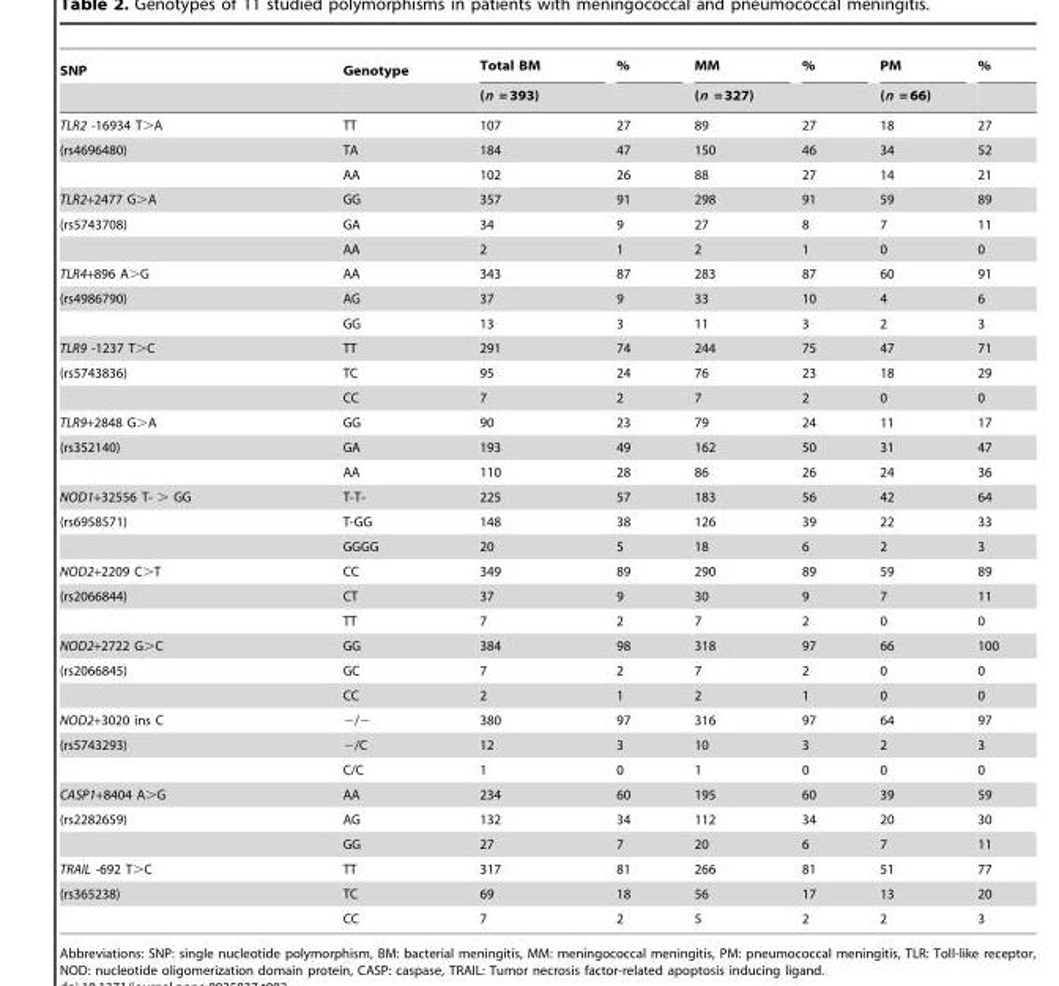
<table><thead><tr><td rowspan="2">SNP</td><td rowspan="2">Genotype</td><td rowspan="2">Total BM (n = 393)</td><td rowspan="2">%</td><td rowspan="2">MM (n = 327)</td><td rowspan="2">%</td><td rowspan="2">PM (n = 66)</td><td rowspan="2">%</td></tr><tr></tr></thead><tbody><tr><td>TLR2 -16934 T&gt;A</td><td>TT</td><td>107</td><td>27</td><td>89</td><td>27</td><td>18</td><td>27</td></tr><tr><td rowspan="2">(rs4696480)</td><td>TA</td><td>184</td><td>47</td><td>150</td><td>46</td><td>34</td><td>52</td></tr><tr><td>AA</td><td>102</td><td>26</td><td>88</td><td>27</td><td>14</td><td>21</td></tr><tr><td>TLR2+2477 G&gt;A</td><td>GG</td><td>357</td><td>91</td><td>298</td><td>91</td><td>59</td><td>89</td></tr><tr><td rowspan="2">(rs5743708)</td><td>GA</td><td>34</td><td>9</td><td>27</td><td>8</td><td>7</td><td>11</td></tr><tr><td>AA</td><td>2</td><td>1</td><td>2</td><td>1</td><td>0</td><td>0</td></tr><tr><td>TLR4+896 A&gt;G</td><td>AA</td><td>343</td><td>87</td><td>283</td><td>87</td><td>60</td><td>91</td></tr><tr><td rowspan="2">(rs4986790)</td><td>AG</td><td>37</td><td>9</td><td>33</td><td>10</td><td>4</td><td>6</td></tr><tr><td>GG</td><td>13</td><td>3</td><td>11</td><td>3</td><td>2</td><td>3</td></tr><tr><td>TLR9 -1237 T&gt;C</td><td>TT</td><td>291</td><td>74</td><td>244</td><td>75</td><td>47</td><td>71</td></tr><tr><td rowspan="2">(rs5743836)</td><td>TC</td><td>95</td><td>24</td><td>76</td><td>23</td><td>18</td><td>29</td></tr><tr><td>CC</td><td>7</td><td>2</td><td>7</td><td>2</td><td>0</td><td>0</td></tr><tr><td>TLR9+2848 G&gt;A</td><td>GG</td><td>90</td><td>23</td><td>79</td><td>24</td><td>11</td><td>17</td></tr><tr><td rowspan="2">(rs352140)</td><td>GA</td><td>193</td><td>49</td><td>162</td><td>50</td><td>31</td><td>47</td></tr><tr><td>AA</td><td>110</td><td>28</td><td>86</td><td>26</td><td>24</td><td>36</td></tr><tr><td>NOD1+32556 T- &gt; GG</td><td>T-T-</td><td>225</td><td>57</td><td>183</td><td>56</td><td>42</td><td>64</td></tr><tr><td rowspan="2">(rs6958571)</td><td>T-GG</td><td>148</td><td>38</td><td>126</td><td>39</td><td>22</td><td>33</td></tr><tr><td>GGGG</td><td>20</td><td>5</td><td>18</td><td>6</td><td>2</td><td>3</td></tr><tr><td>NOD2+2209 C&gt;T</td><td>CC</td><td>349</td><td>89</td><td>290</td><td>89</td><td>59</td><td>89</td></tr><tr><td rowspan="2">(rs2066844)</td><td>CT</td><td>37</td><td>9</td><td>30</td><td>9</td><td>7</td><td>11</td></tr><tr><td>TT</td><td>7</td><td>2</td><td>7</td><td>2</td><td>0</td><td>0</td></tr><tr><td>NOD2+2722 G&gt;C</td><td>GG</td><td>384</td><td>98</td><td>318</td><td>97</td><td>66</td><td>100</td></tr><tr><td rowspan="2">(rs2066845)</td><td>GC</td><td>7</td><td>2</td><td>7</td><td>2</td><td>0</td><td>0</td></tr><tr><td>CC</td><td>2</td><td>1</td><td>2</td><td>1</td><td>0</td><td>0</td></tr><tr><td>NOD2+3020 ins C</td><td>−/−</td><td>380</td><td>97</td><td>316</td><td>97</td><td>64</td><td>97</td></tr><tr><td rowspan="2">(rs5743293)</td><td>−/C</td><td>12</td><td>3</td><td>10</td><td>3</td><td>2</td><td>3</td></tr><tr><td>C/C</td><td>1</td><td>0</td><td>1</td><td>0</td><td>0</td><td>0</td></tr><tr><td>CASP1+8404 A&gt;G</td><td>AA</td><td>234</td><td>60</td><td>195</td><td>60</td><td>39</td><td>59</td></tr><tr><td rowspan="2">(rs2282659)</td><td>AG</td><td>132</td><td>34</td><td>112</td><td>34</td><td>20</td><td>30</td></tr><tr><td>GG</td><td>27</td><td>7</td><td>20</td><td>6</td><td>7</td><td>11</td></tr><tr><td>TRAIL -692 T&gt;C</td><td>TT</td><td>317</td><td>81</td><td>266</td><td>81</td><td>51</td><td>77</td></tr><tr><td rowspan="2">(rs365238)</td><td>TC</td><td>69</td><td>18</td><td>56</td><td>17</td><td>13</td><td>20</td></tr><tr><td>CC</td><td>7</td><td>2</td><td>5</td><td>2</td><td>2</td><td>3</td></tr></tbody></table>